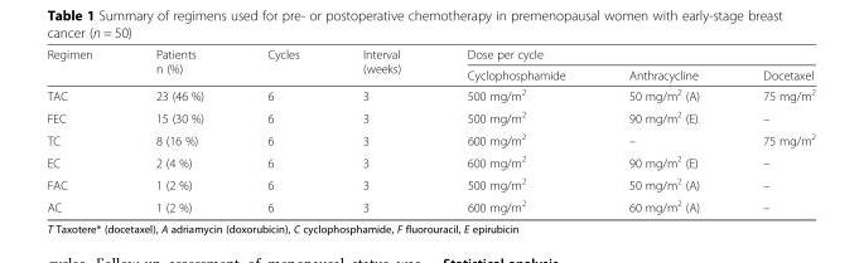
<table><thead><tr><td rowspan="2">Regimen</td><td rowspan="2">Patients n (%)</td><td rowspan="2">Cycles</td><td rowspan="2">Interval (weeks)</td><td colspan="3">Dose per cycle</td></tr><tr><td>Cyclophosphamide</td><td>Anthracycline</td><td>Docetaxel</td></tr></thead><tbody><tr><td>TAC</td><td>23 (46 %)</td><td>6</td><td>3</td><td>500 mg/m<sup>2</sup></td><td>50 mg/m<sup>2</sup> (A)</td><td>75 mg/m<sup>2</sup></td></tr><tr><td>FEC</td><td>15 (30 %)</td><td>6</td><td>3</td><td>500 mg/m<sup>2</sup></td><td>90 mg/m<sup>2</sup> (E)</td><td>–</td></tr><tr><td>TC</td><td>8 (16 %)</td><td>6</td><td>3</td><td>600 mg/m<sup>2</sup></td><td>–</td><td>75 mg/m<sup>2</sup></td></tr><tr><td>EC</td><td>2 (4 %)</td><td>6</td><td>3</td><td>600 mg/m<sup>2</sup></td><td>90 mg/m<sup>2</sup> (E)</td><td>–</td></tr><tr><td>FAC</td><td>1 (2 %)</td><td>6</td><td>3</td><td>500 mg/m<sup>2</sup></td><td>50 mg/m<sup>2</sup> (A)</td><td>–</td></tr><tr><td>AC</td><td>1 (2 %)</td><td>6</td><td>3</td><td>600 mg/m<sup>2</sup></td><td>60 mg/m<sup>2</sup> (A)</td><td>–</td></tr></tbody></table>